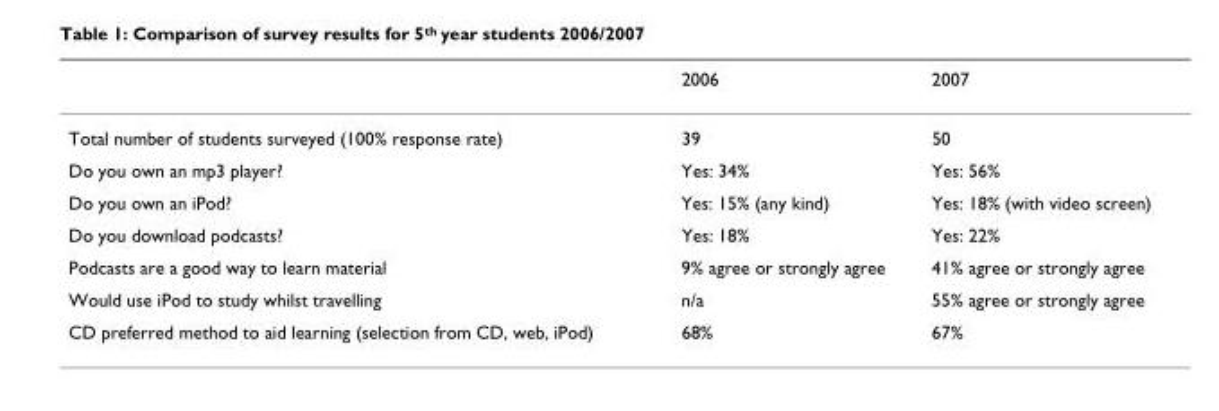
<table><thead><tr><td></td><td>2006</td><td>2007</td></tr></thead><tbody><tr><td>Total number of students surveyed (100% response rate)</td><td>39</td><td>50</td></tr><tr><td>Do you own an mp3 player?</td><td>Yes: 34%</td><td>Yes: 56%</td></tr><tr><td>Do you own an iPod?</td><td>Yes: 15% (any kind)</td><td>Yes: 18% (with video screen)</td></tr><tr><td>Do you download podcasts?</td><td>Yes: 18%</td><td>Yes: 22%</td></tr><tr><td>Podcasts are a good way to learn material</td><td>9% agree or strongly agree</td><td>41% agree or strongly agree</td></tr><tr><td>Would use iPod to study whilst travelling</td><td>n/a</td><td>55% agree or strongly agree</td></tr><tr><td>CD preferred method to aid learning (selection from CD, web, iPod)</td><td>68%</td><td>67%</td></tr></tbody></table>